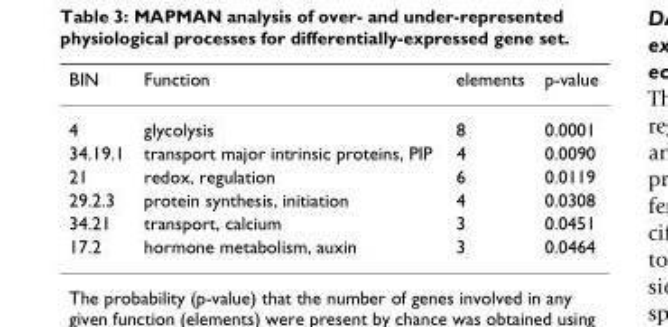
<table><thead><tr><td>BIN</td><td>Function</td><td>elements</td><td>p-value</td></tr></thead><tbody><tr><td>4</td><td>glycolysis</td><td>8</td><td>0.0001</td></tr><tr><td>34.19.1</td><td>transport major intrinsic proteins, PIP</td><td>4</td><td>0.0090</td></tr><tr><td>21</td><td>redox, regulation</td><td>6</td><td>0.0119</td></tr><tr><td>29.2.3</td><td>protein synthesis, initiation</td><td>4</td><td>0.0308</td></tr><tr><td>34.21</td><td>transport, calcium</td><td>3</td><td>0.0451</td></tr><tr><td>17.2</td><td>hormone metabolism, auxin</td><td>3</td><td>0.0464</td></tr></tbody></table>